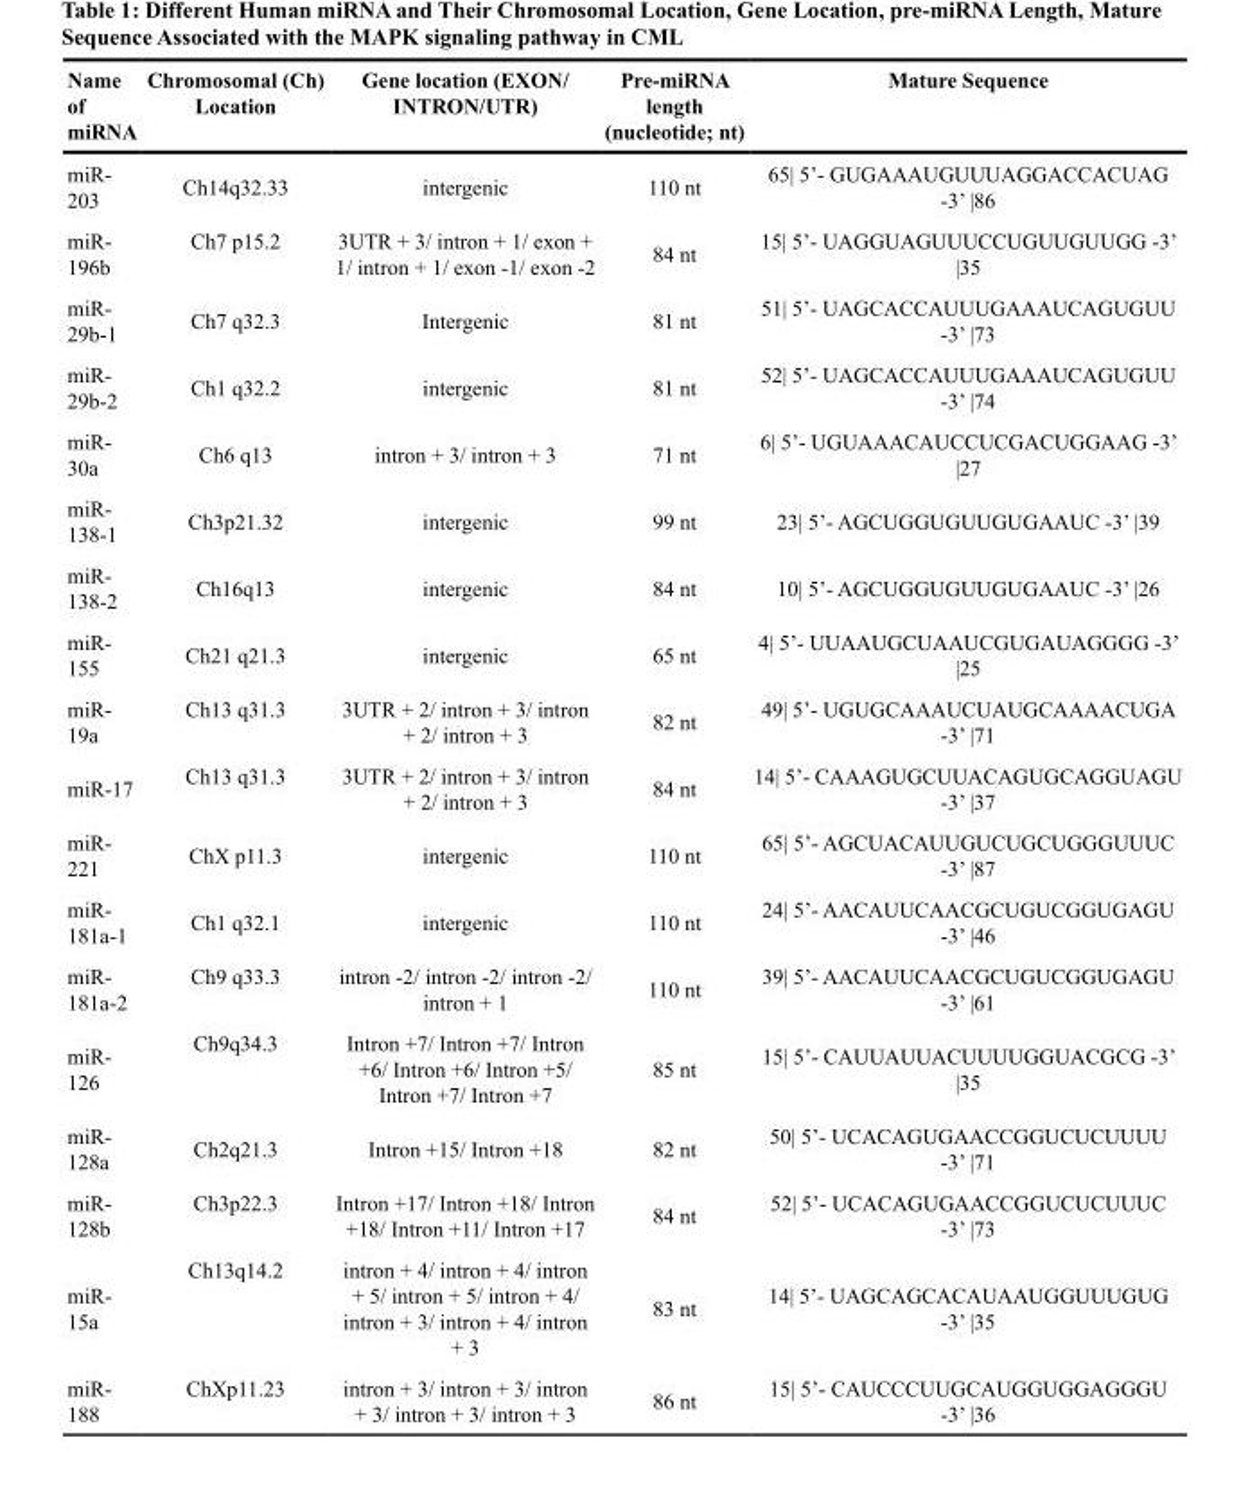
<table><thead><tr><td>Name of miRNA</td><td>Chromosomal (Ch) Location</td><td>Gene location (EXON/ INTRON/UTR)</td><td>Pre-miRNA length (nucleotide; nt)</td><td>Mature Sequence</td></tr></thead><tbody><tr><td>miR- 203</td><td>Ch14q32.33</td><td>intergenic</td><td>110 nt</td><td>65| 5’- GUGAAAUGUUUAGGACCACUAG -3’ |86</td></tr><tr><td>miR- 196b</td><td>Ch7 p15.2</td><td>3UTR + 3/ intron + 1/ exon + 1/ intron + 1/ exon -1/ exon -2</td><td>84 nt</td><td>15| 5’- UAGGUAGUUUCCUGUUGUUGG -3’ |35</td></tr><tr><td>miR- 29b-1</td><td>Ch7 q32.3</td><td>Intergenic</td><td>81 nt</td><td>51| 5’- UAGCACCAUUUGAAAUCAGUGUU -3’ |73</td></tr><tr><td>miR- 29b-2</td><td>Ch1 q32.2</td><td>intergenic</td><td>81 nt</td><td>52| 5’- UAGCACCAUUUGAAAUCAGUGUU -3’ |74</td></tr><tr><td>miR- 30a</td><td>Ch6 q13</td><td>intron + 3/ intron + 3</td><td>71 nt</td><td>6| 5’- UGUAAACAUCCUCGACUGGAAG -3’ |27</td></tr><tr><td>miR- 138-1</td><td>Ch3p21.32</td><td>intergenic</td><td>99 nt</td><td>23| 5’- AGCUGGUGUUGUGAAUC -3’ |39</td></tr><tr><td>miR- 138-2</td><td>Ch16q13</td><td>intergenic</td><td>84 nt</td><td>10| 5’- AGCUGGUGUUGUGAAUC -3’ |26</td></tr><tr><td>miR- 155</td><td>Ch21 q21.3</td><td>intergenic</td><td>65 nt</td><td>4| 5’- UUAAUGCUAAUCGUGAUAGGGG -3’ |25</td></tr><tr><td>miR- 19a</td><td>Ch13 q31.3</td><td>3UTR + 2/ intron + 3/ intron + 2/ intron + 3</td><td>82 nt</td><td>49| 5’- UGUGCAAAUCUAUGCAAAACUGA -3’ |71</td></tr><tr><td>miR-17</td><td>Ch13 q31.3</td><td>3UTR + 2/ intron + 3/ intron + 2/ intron + 3</td><td>84 nt</td><td>14| 5’- CAAAGUGCUUACAGUGCAGGUAGU -3’ |37</td></tr><tr><td>miR- 221</td><td>ChX p11.3</td><td>intergenic</td><td>110 nt</td><td>65| 5’- AGCUACAUUGUCUGCUGGGUUUC -3’ |87</td></tr><tr><td>miR- 181a-1</td><td>Ch1 q32.1</td><td>intergenic</td><td>110 nt</td><td>24| 5’- AACAUUCAACGCUGUCGGUGAGU -3’ |46</td></tr><tr><td>miR- 181a-2</td><td>Ch9 q33.3</td><td>intron -2/ intron -2/ intron -2/ intron + 1</td><td>110 nt</td><td>39| 5’- AACAUUCAACGCUGUCGGUGAGU -3’ |61</td></tr><tr><td>miR- 126</td><td>Ch9q34.3</td><td>Intron +7/ Intron +7/ Intron +6/ Intron +6/ Intron +5/ Intron +7/ Intron +7</td><td>85 nt</td><td>15| 5’- CAUUAUUACUUUUGGUACGCG -3’ |35</td></tr><tr><td>miR- 128a</td><td>Ch2q21.3</td><td>Intron +15/ Intron +18</td><td>82 nt</td><td>50| 5’- UCACAGUGAACCGGUCUCUUUU -3’ |71</td></tr><tr><td>miR- 128b</td><td>Ch3p22.3</td><td>Intron +17/ Intron +18/ Intron +18/ Intron +11/ Intron +17</td><td>84 nt</td><td>52| 5’- UCACAGUGAACCGGUCUCUUUC -3’ |73</td></tr><tr><td>miR- 15a</td><td>Ch13q14.2</td><td>intron + 4/ intron + 4/ intron + 5/ intron + 5/ intron + 4/ intron + 3/ intron + 4/ intron + 3</td><td>83 nt</td><td>14| 5’- UAGCAGCACAUAAUGGUUUGUG -3’ |35</td></tr><tr><td>miR- 188</td><td>ChXp11.23</td><td>intron + 3/ intron + 3/ intron + 3/ intron + 3/ intron + 3</td><td>86 nt</td><td>15| 5’- CAUCCCUUGCAUGGUGGAGGGU -3’ |36</td></tr></tbody></table>